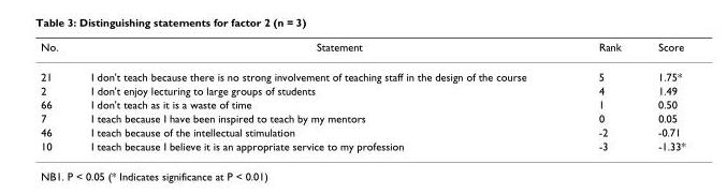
<table><thead><tr><td>No.</td><td>Statement</td><td>Rank</td><td>Score</td></tr></thead><tbody><tr><td>21</td><td>I don&#x27;t teach because there is no strong involvement of teaching staff in the design of the course</td><td>5</td><td>1.75*</td></tr><tr><td>2</td><td>I don&#x27;t enjoy lecturing to large groups of students</td><td>4</td><td>1.49</td></tr><tr><td>66</td><td>I don&#x27;t teach as it is a waste of time</td><td>1</td><td>0.50</td></tr><tr><td>7</td><td>I teach because I have been inspired to teach by my mentors</td><td>0</td><td>0.05</td></tr><tr><td>46</td><td>I teach because of the intellectual stimulation</td><td>-2</td><td>-0.71</td></tr><tr><td>10</td><td>I teach because I believe it is an appropriate service to my profession</td><td>-3</td><td>-1.33*</td></tr></tbody></table>